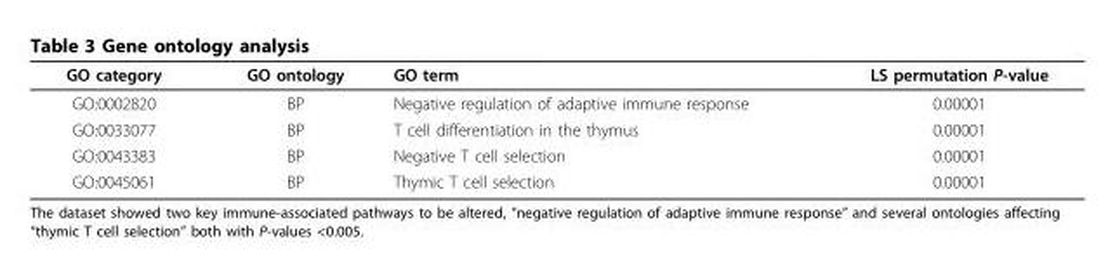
<table><thead><tr><td>GO category</td><td>GO ontology</td><td>GO term</td><td>LS permutation P-value</td></tr></thead><tbody><tr><td>GO:0002820</td><td>BP</td><td>Negative regulation of adaptive immune response</td><td>0.00001</td></tr><tr><td>GO:0033077</td><td>BP</td><td>T cell differentiation in the thymus</td><td>0.00001</td></tr><tr><td>GO:0043383</td><td>BP</td><td>Negative T cell selection</td><td>0.00001</td></tr><tr><td>GO:0045061</td><td>BP</td><td>Thymic T cell selection</td><td>0.00001</td></tr></tbody></table>